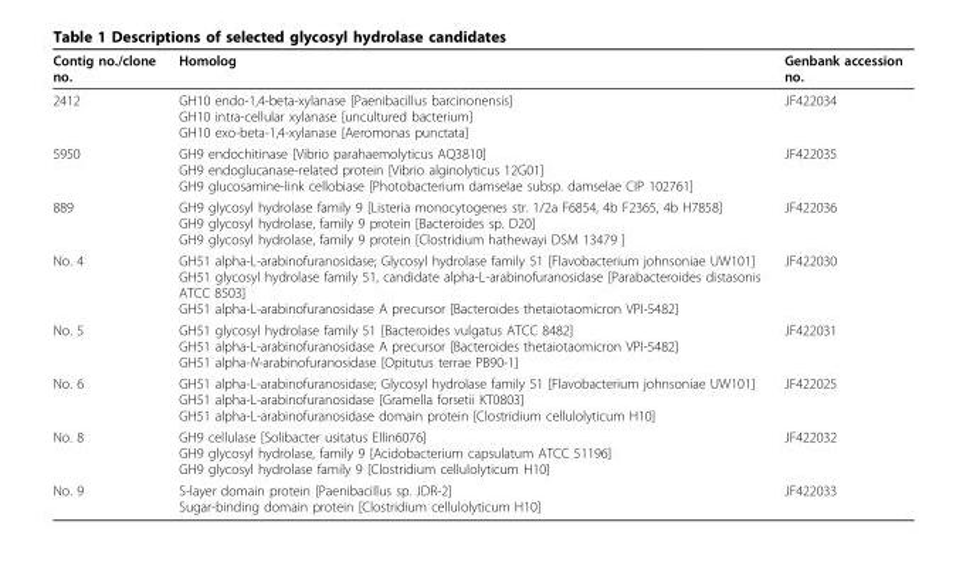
<table><thead><tr><td>Contig no./clone no.</td><td>Homolog</td><td>Genbank accession no.</td></tr></thead><tbody><tr><td>2412</td><td>GH10 endo-1,4-beta-xylanase [Paenibacillus barcinonensis] GH10 intra-cellular xylanase [uncultured bacterium] GH10 exo-beta-1,4-xylanase [Aeromonas punctata]</td><td>JF422034</td></tr><tr><td>5950</td><td>GH9 endochitinase [Vibrio parahaemolyticus AQ3810] GH9 endoglucanase-related protein [Vibrio alginolyticus 12G01] GH9 glucosamine-link cellobiase [Photobacterium damselae subsp. damselae CIP 102761]</td><td>JF422035</td></tr><tr><td>889</td><td>GH9 glycosyl hydrolase family 9 [Listeria monocytogenes str. 1/2a F6854, 4b F2365, 4b H7858] GH9 glycosyl hydrolase, family 9 protein [Bacteroides sp. D20] GH9 glycosyl hydrolase, family 9 protein [Clostridium hathewayi DSM 13479 ]</td><td>JF422036</td></tr><tr><td>No. 4</td><td>GH51 alpha-L-arabinofuranosidase; Glycosyl hydrolase family 51 [Flavobacterium johnsoniae UW101] GH51 glycosyl hydrolase family 51, candidate alpha-L-arabinofuranosidase [Parabacteroides distasonis ATCC 8503] GH51 alpha-L-arabinofuranosidase A precursor [Bacteroides thetaiotaomicron VPI-5482]</td><td>JF422030</td></tr><tr><td>No. 5</td><td>GH51 glycosyl hydrolase family 51 [Bacteroides vulgatus ATCC 8482] GH51 alpha-L-arabinofuranosidase A precursor [Bacteroides thetaiotaomicron VPI-5482] GH51 alpha-N-arabinofuranosidase [Opitutus terrae PB90-1]</td><td>JF422031</td></tr><tr><td>No. 6</td><td>GH51 alpha-L-arabinofuranosidase; Glycosyl hydrolase family 51 [Flavobacterium johnsoniae UW101] GH51 alpha-L-arabinofuranosidase [Gramella forsetii KT0803] GH51 alpha-L-arabinofuranosidase domain protein [Clostridium cellulolyticum H10]</td><td>JF422025</td></tr><tr><td>No. 8</td><td>GH9 cellulase [Solibacter usitatus Ellin6076] GH9 glycosyl hydrolase, family 9 [Acidobacterium capsulatum ATCC 51196] GH9 glycosyl hydrolase family 9 [Clostridium cellulolyticum H10]</td><td>JF422032</td></tr><tr><td>No. 9</td><td>S-layer domain protein [Paenibacillus sp. JDR-2] Sugar-binding domain protein [Clostridium cellulolyticum H10]</td><td>JF422033</td></tr></tbody></table>